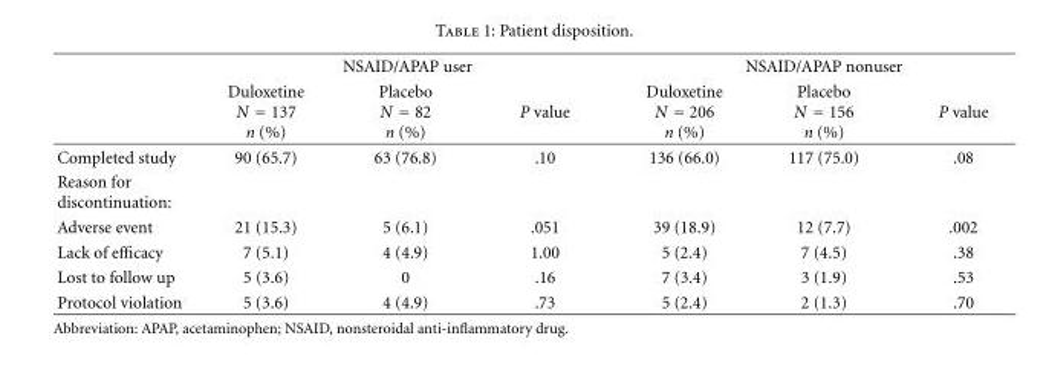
<table><thead><tr><td rowspan="2"></td><td colspan="3">NSAID/APAP user</td><td colspan="3">NSAID/APAP nonuser</td></tr><tr><td>Duloxetine N = 137 n (%)</td><td>Placebo N = 82 n (%)</td><td>P value</td><td>Duloxetine N = 206 n (%)</td><td>Placebo N = 156 n (%)</td><td>P value</td></tr></thead><tbody><tr><td>Completed study</td><td>90 (65.7)</td><td>63 (76.8)</td><td>.10</td><td>136 (66.0)</td><td>117 (75.0)</td><td>.08</td></tr><tr><td colspan="7">Reason for discontinuation:</td></tr><tr><td>Adverse event</td><td>21 (15.3)</td><td>5 (6.1)</td><td>.051</td><td>39 (18.9)</td><td>12 (7.7)</td><td>.002</td></tr><tr><td>Lack of efficacy</td><td>7 (5.1)</td><td>4 (4.9)</td><td>1.00</td><td>5 (2.4)</td><td>7 (4.5)</td><td>.38</td></tr><tr><td>Lost to follow up</td><td>5 (3.6)</td><td>0</td><td>.16</td><td>7 (3.4)</td><td>3 (1.9)</td><td>.53</td></tr><tr><td>Protocol violation</td><td>5 (3.6)</td><td>4 (4.9)</td><td>.73</td><td>5 (2.4)</td><td>2 (1.3)</td><td>.70</td></tr></tbody></table>